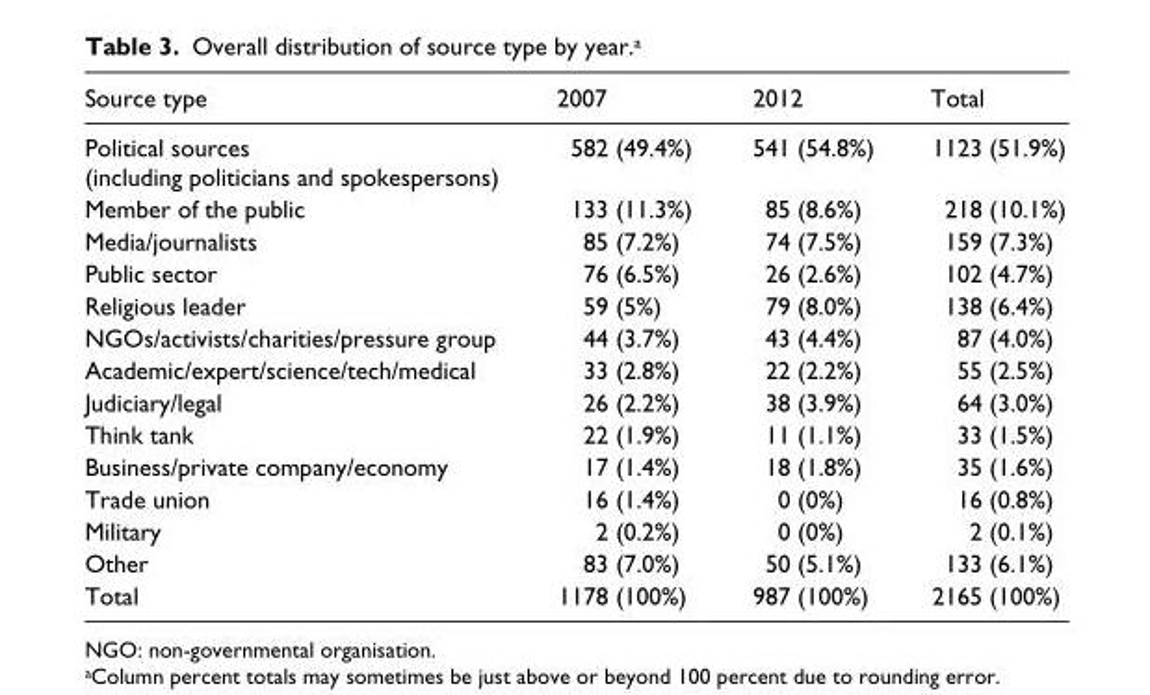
<table><thead><tr><td>Source type</td><td>2007</td><td>2012</td><td>Total</td></tr></thead><tbody><tr><td>Political sources (including politicians and spokespersons)</td><td>582 (49.4%)</td><td>541 (54.8%)</td><td>1123 (51.9%)</td></tr><tr><td>Member of the public</td><td>133 (11.3%)</td><td>85 (8.6%)</td><td>218 (10.1%)</td></tr><tr><td>Media/journalists</td><td>85 (7.2%)</td><td>74 (7.5%)</td><td>159 (7.3%)</td></tr><tr><td>Public sector</td><td>76 (6.5%)</td><td>26 (2.6%)</td><td>102 (4.7%)</td></tr><tr><td>Religious leader</td><td>59 (5%)</td><td>79 (8.0%)</td><td>138 (6.4%)</td></tr><tr><td>NGOs/activists/charities/pressure group</td><td>44 (3.7%)</td><td>43 (4.4%)</td><td>87 (4.0%)</td></tr><tr><td>Academic/expert/science/tech/medical</td><td>33 (2.8%)</td><td>22 (2.2%)</td><td>55 (2.5%)</td></tr><tr><td>Judiciary/legal</td><td>26 (2.2%)</td><td>38 (3.9%)</td><td>64 (3.0%)</td></tr><tr><td>Think tank</td><td>22 (1.9%)</td><td>11 (1.1%)</td><td>33 (1.5%)</td></tr><tr><td>Business/private company/economy</td><td>17 (1.4%)</td><td>18 (1.8%)</td><td>35 (1.6%)</td></tr><tr><td>Trade union</td><td>16 (1.4%)</td><td>0 (0%)</td><td>16 (0.8%)</td></tr><tr><td>Military</td><td>2 (0.2%)</td><td>0 (0%)</td><td>2 (0.1%)</td></tr><tr><td>Other</td><td>83 (7.0%)</td><td>50 (5.1%)</td><td>133 (6.1%)</td></tr><tr><td>Total</td><td>1178 (100%)</td><td>987 (100%)</td><td>2165 (100%)</td></tr></tbody></table>